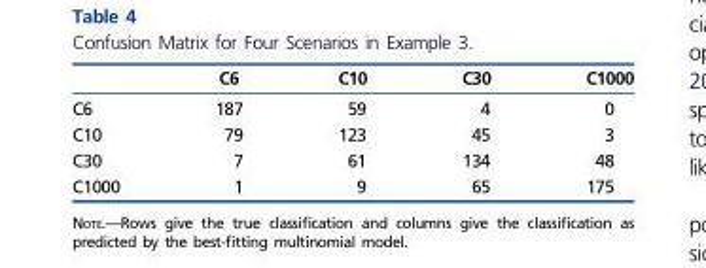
<table><thead><tr><td></td><td>C6</td><td>C10</td><td>C30</td><td>C1000</td></tr></thead><tbody><tr><td>C6</td><td>187</td><td>59</td><td>4</td><td>0</td></tr><tr><td>C10</td><td>79</td><td>123</td><td>45</td><td>3</td></tr><tr><td>C30</td><td>7</td><td>61</td><td>134</td><td>48</td></tr><tr><td>C1000</td><td>1</td><td>9</td><td>65</td><td>175</td></tr></tbody></table>